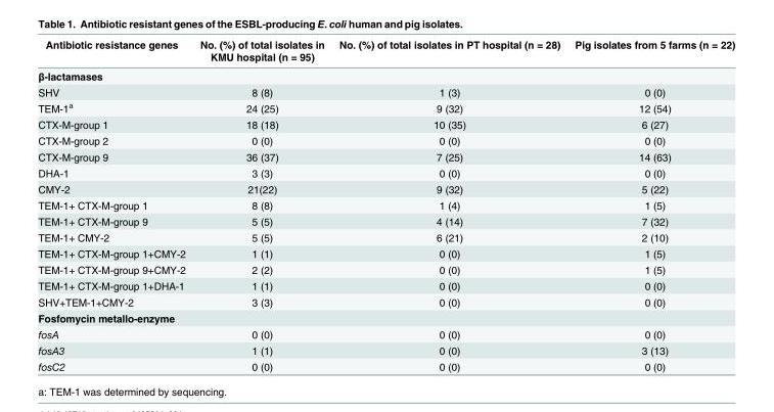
<table><thead><tr><td>Antibiotic resistance genes</td><td>No. (%) of total isolates in KMU hospital (n = 95)</td><td>No. (%) of total isolates in PT hospital (n = 28)</td><td>Pig isolates from 5 farms (n = 22)</td></tr></thead><tbody><tr><td colspan="4">β-lactamases</td></tr><tr><td>SHV</td><td>8 (8)</td><td>1 (3)</td><td>0 (0)</td></tr><tr><td>TEM-1<sup>a</sup></td><td>24 (25)</td><td>9 (32)</td><td>12 (54)</td></tr><tr><td>CTX-M-group 1</td><td>18 (18)</td><td>10 (35)</td><td>6 (27)</td></tr><tr><td>CTX-M-group 2</td><td>0 (0)</td><td>0 (0)</td><td>0 (0)</td></tr><tr><td>CTX-M-group 9</td><td>36 (37)</td><td>7 (25)</td><td>14 (63)</td></tr><tr><td>DHA-1</td><td>3 (3)</td><td>0 (0)</td><td>0 (0)</td></tr><tr><td>CMY-2</td><td>21(22)</td><td>9 (32)</td><td>5 (22)</td></tr><tr><td>TEM-1+ CTX-M-group 1</td><td>8 (8)</td><td>1 (4)</td><td>1 (5)</td></tr><tr><td>TEM-1+ CTX-M-group 9</td><td>5 (5)</td><td>4 (14)</td><td>7 (32)</td></tr><tr><td>TEM-1+ CMY-2</td><td>5 (5)</td><td>6 (21)</td><td>2 (10)</td></tr><tr><td>TEM-1+ CTX-M-group 1+CMY-2</td><td>1 (1)</td><td>0 (0)</td><td>1 (5)</td></tr><tr><td>TEM-1+ CTX-M-group 9+CMY-2</td><td>2 (2)</td><td>0 (0)</td><td>1 (5)</td></tr><tr><td>TEM-1+ CTX-M-group 1+DHA-1</td><td>1 (1)</td><td>0 (0)</td><td>0 (0)</td></tr><tr><td>SHV+TEM-1+CMY-2</td><td>3 (3)</td><td>0 (0)</td><td>0 (0)</td></tr><tr><td colspan="4">Fosfomycin metallo-enzyme</td></tr><tr><td>fosA</td><td>0 (0)</td><td>0 (0)</td><td>0 (0)</td></tr><tr><td>fosA3</td><td>1 (1)</td><td>0 (0)</td><td>3 (13)</td></tr><tr><td>fosC2</td><td>0 (0)</td><td>0 (0)</td><td>0 (0)</td></tr></tbody></table>